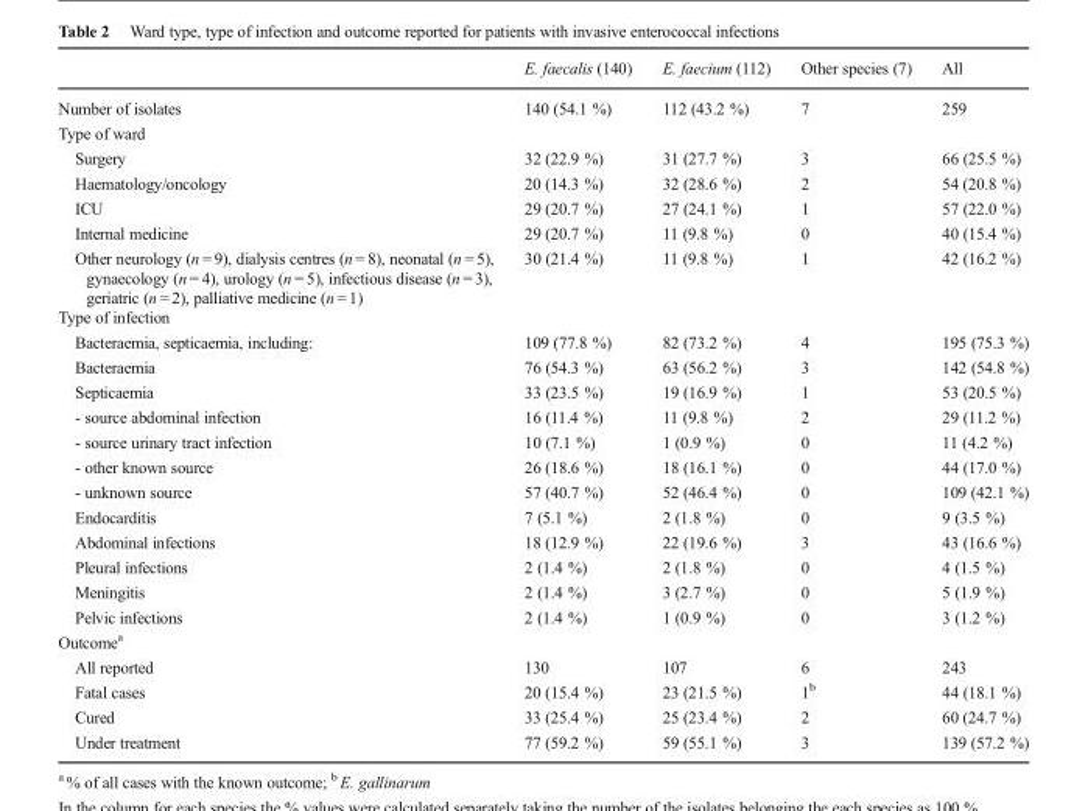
<table><thead><tr><td></td><td>E. faecalis (140)</td><td>E. faecium (112)</td><td>Other species (7)</td><td>All</td></tr></thead><tbody><tr><td>Number of isolates</td><td>140 (54.1 %)</td><td>112 (43.2 %)</td><td>7</td><td>259</td></tr><tr><td colspan="5">Type of ward</td></tr><tr><td>Surgery</td><td>32 (22.9 %)</td><td>31 (27.7 %)</td><td>3</td><td>66 (25.5 %)</td></tr><tr><td>Haematology/oncology</td><td>20 (14.3 %)</td><td>32 (28.6 %)</td><td>2</td><td>54 (20.8 %)</td></tr><tr><td>ICU</td><td>29 (20.7 %)</td><td>27 (24.1 %)</td><td>1</td><td>57 (22.0 %)</td></tr><tr><td>Internal medicine</td><td>29 (20.7 %)</td><td>11 (9.8 %)</td><td>0</td><td>40 (15.4 %)</td></tr><tr><td>Other neurology (n = 9), dialysis centres (n = 8), neonatal (n = 5), gynaecology (n = 4), urology (n = 5), infectious disease (n = 3), geriatric (n = 2), palliative medicine (n = 1)</td><td>30 (21.4 %)</td><td>11 (9.8 %)</td><td>1</td><td>42 (16.2 %)</td></tr><tr><td colspan="5">Type of infection</td></tr><tr><td>Bacteraemia, septicaemia, including:</td><td>109 (77.8 %)</td><td>82 (73.2 %)</td><td>4</td><td>195 (75.3 %)</td></tr><tr><td>Bacteraemia</td><td>76 (54.3 %)</td><td>63 (56.2 %)</td><td>3</td><td>142 (54.8 %)</td></tr><tr><td>Septicaemia</td><td>33 (23.5 %)</td><td>19 (16.9 %)</td><td>1</td><td>53 (20.5 %)</td></tr><tr><td>- source abdominal infection</td><td>16 (11.4 %)</td><td>11 (9.8 %)</td><td>2</td><td>29 (11.2 %)</td></tr><tr><td>- source urinary tract infection</td><td>10 (7.1 %)</td><td>1 (0.9 %)</td><td>0</td><td>11 (4.2 %)</td></tr><tr><td>- other known source</td><td>26 (18.6 %)</td><td>18 (16.1 %)</td><td>0</td><td>44 (17.0 %)</td></tr><tr><td>- unknown source</td><td>57 (40.7 %)</td><td>52 (46.4 %)</td><td>0</td><td>109 (42.1 %)</td></tr><tr><td>Endocarditis</td><td>7 (5.1 %)</td><td>2 (1.8 %)</td><td>0</td><td>9 (3.5 %)</td></tr><tr><td>Abdominal infections</td><td>18 (12.9 %)</td><td>22 (19.6 %)</td><td>3</td><td>43 (16.6 %)</td></tr><tr><td>Pleural infections</td><td>2 (1.4 %)</td><td>2 (1.8 %)</td><td>0</td><td>4 (1.5 %)</td></tr><tr><td>Meningitis</td><td>2 (1.4 %)</td><td>3 (2.7 %)</td><td>0</td><td>5 (1.9 %)</td></tr><tr><td>Pelvic infections</td><td>2 (1.4 %)</td><td>1 (0.9 %)</td><td>0</td><td>3 (1.2 %)</td></tr><tr><td colspan="5">Outcome<sup>a</sup></td></tr><tr><td>All reported</td><td>130</td><td>107</td><td>6</td><td>243</td></tr><tr><td>Fatal cases</td><td>20 (15.4 %)</td><td>23 (21.5 %)</td><td>1<sup>b</sup></td><td>44 (18.1 %)</td></tr><tr><td>Cured</td><td>33 (25.4 %)</td><td>25 (23.4 %)</td><td>2</td><td>60 (24.7 %)</td></tr><tr><td>Under treatment</td><td>77 (59.2 %)</td><td>59 (55.1 %)</td><td>3</td><td>139 (57.2 %)</td></tr></tbody></table>